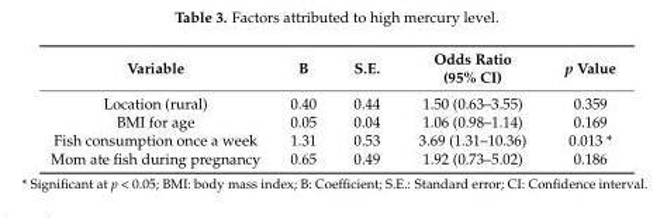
<table><thead><tr><td>Variable</td><td>B</td><td>S.E.</td><td>Odds Ratio (95% CI)</td><td>p Value</td></tr></thead><tbody><tr><td>Location (rural)</td><td>0.40</td><td>0.44</td><td>1.50 (0.63–3.55)</td><td>0.359</td></tr><tr><td>BMI for age</td><td>0.05</td><td>0.04</td><td>1.06 (0.98–1.14)</td><td>0.169</td></tr><tr><td>Fish consumption once a week</td><td>1.31</td><td>0.53</td><td>3.69 (1.31–10.36)</td><td>0.013 *</td></tr><tr><td>Mom ate fish during pregnancy</td><td>0.65</td><td>0.49</td><td>1.92 (0.73–5.02)</td><td>0.186</td></tr></tbody></table>